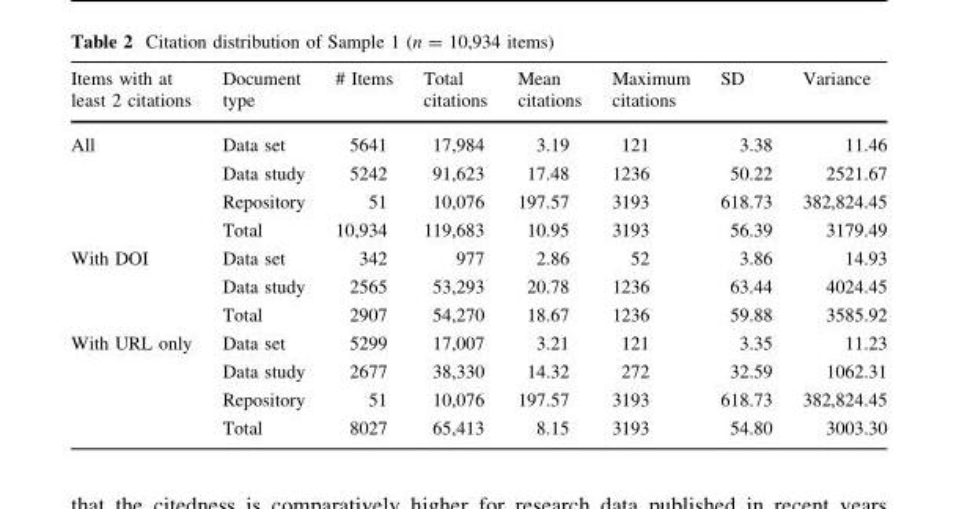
<table><thead><tr><td>Items with at least 2 citations</td><td>Document type</td><td># Items</td><td>Total citations</td><td>Mean citations</td><td>Maximum citations</td><td>SD</td><td>Variance</td></tr></thead><tbody><tr><td rowspan="4">All</td><td>Data set</td><td>5641</td><td>17,984</td><td>3.19</td><td>121</td><td>3.38</td><td>11.46</td></tr><tr><td>Data study</td><td>5242</td><td>91,623</td><td>17.48</td><td>1236</td><td>50.22</td><td>2521.67</td></tr><tr><td>Repository</td><td>51</td><td>10,076</td><td>197.57</td><td>3193</td><td>618.73</td><td>382,824.45</td></tr><tr><td>Total</td><td>10,934</td><td>119,683</td><td>10.95</td><td>3193</td><td>56.39</td><td>3179.49</td></tr><tr><td rowspan="3">With DOI</td><td>Data set</td><td>342</td><td>977</td><td>2.86</td><td>52</td><td>3.86</td><td>14.93</td></tr><tr><td>Data study</td><td>2565</td><td>53,293</td><td>20.78</td><td>1236</td><td>63.44</td><td>4024.45</td></tr><tr><td>Total</td><td>2907</td><td>54,270</td><td>18.67</td><td>1236</td><td>59.88</td><td>3585.92</td></tr><tr><td rowspan="4">With URL only</td><td>Data set</td><td>5299</td><td>17,007</td><td>3.21</td><td>121</td><td>3.35</td><td>11.23</td></tr><tr><td>Data study</td><td>2677</td><td>38,330</td><td>14.32</td><td>272</td><td>32.59</td><td>1062.31</td></tr><tr><td>Repository</td><td>51</td><td>10,076</td><td>197.57</td><td>3193</td><td>618.73</td><td>382,824.45</td></tr><tr><td>Total</td><td>8027</td><td>65,413</td><td>8.15</td><td>3193</td><td>54.80</td><td>3003.30</td></tr></tbody></table>